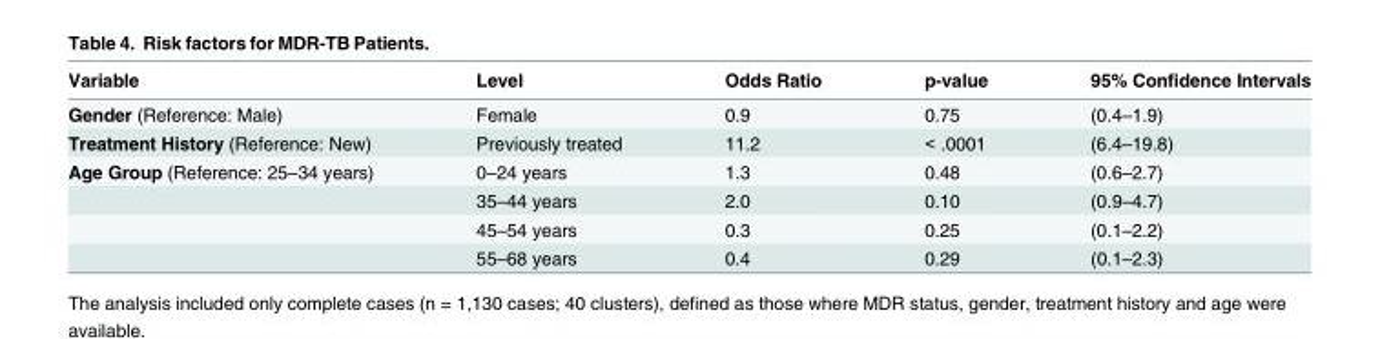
<table><thead><tr><td>Variable</td><td>Level</td><td>Odds Ratio</td><td>p-value</td><td>95% Confidence Intervals</td></tr></thead><tbody><tr><td>Gender (Reference: Male)</td><td>Female</td><td>0.9</td><td>0.75</td><td>(0.4–1.9)</td></tr><tr><td>Treatment History (Reference: New)</td><td>Previously treated</td><td>11.2</td><td>&lt; .0001</td><td>(6.4–19.8)</td></tr><tr><td rowspan="4">Age Group (Reference: 25–34 years)</td><td>0–24 years</td><td>1.3</td><td>0.48</td><td>(0.6–2.7)</td></tr><tr><td>35–44 years</td><td>2.0</td><td>0.10</td><td>(0.9–4.7)</td></tr><tr><td>45–54 years</td><td>0.3</td><td>0.25</td><td>(0.1–2.2)</td></tr><tr><td>55–68 years</td><td>0.4</td><td>0.29</td><td>(0.1–2.3)</td></tr></tbody></table>